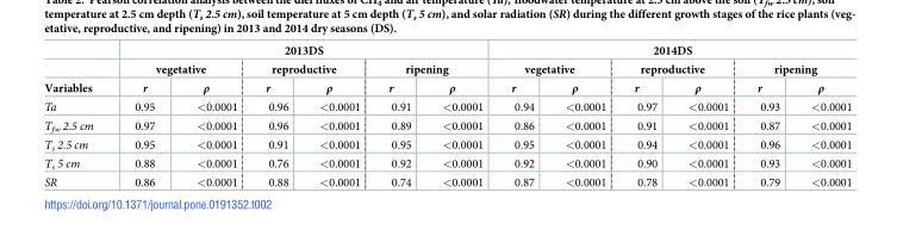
<table><thead><tr><td rowspan="3">Variables</td><td colspan="6">2013DS</td><td colspan="6">2014DS</td></tr><tr><td colspan="2">vegetative</td><td colspan="2">reproductive</td><td colspan="2">ripening</td><td colspan="2">vegetative</td><td colspan="2">reproductive</td><td colspan="2">ripening</td></tr><tr><td>r</td><td>ρ</td><td>r</td><td>ρ</td><td>r</td><td>ρ</td><td>r</td><td>ρ</td><td>r</td><td>ρ</td><td>r</td><td>ρ</td></tr></thead><tbody><tr><td>Ta</td><td>0.95</td><td>&lt;0.0001</td><td>0.96</td><td>&lt;0.0001</td><td>0.91</td><td>&lt;0.0001</td><td>0.94</td><td>&lt;0.0001</td><td>0.97</td><td>&lt;0.0001</td><td>0.93</td><td>&lt;0.0001</td></tr><tr><td>T<sub>fw</sub> 2.5 cm</td><td>0.97</td><td>&lt;0.0001</td><td>0.96</td><td>&lt;0.0001</td><td>0.89</td><td>&lt;0.0001</td><td>0.86</td><td>&lt;0.0001</td><td>0.91</td><td>&lt;0.0001</td><td>0.87</td><td>&lt;0.0001</td></tr><tr><td>T<sub>s</sub> 2.5 cm</td><td>0.95</td><td>&lt;0.0001</td><td>0.91</td><td>&lt;0.0001</td><td>0.95</td><td>&lt;0.0001</td><td>0.95</td><td>&lt;0.0001</td><td>0.94</td><td>&lt;0.0001</td><td>0.96</td><td>&lt;0.0001</td></tr><tr><td>T<sub>s</sub> 5 cm</td><td>0.88</td><td>&lt;0.0001</td><td>0.76</td><td>&lt;0.0001</td><td>0.92</td><td>&lt;0.0001</td><td>0.92</td><td>&lt;0.0001</td><td>0.90</td><td>&lt;0.0001</td><td>0.93</td><td>&lt;0.0001</td></tr><tr><td>SR</td><td>0.86</td><td>&lt;0.0001</td><td>0.88</td><td>&lt;0.0001</td><td>0.74</td><td>&lt;0.0001</td><td>0.87</td><td>&lt;0.0001</td><td>0.78</td><td>&lt;0.0001</td><td>0.79</td><td>&lt;0.0001</td></tr></tbody></table>